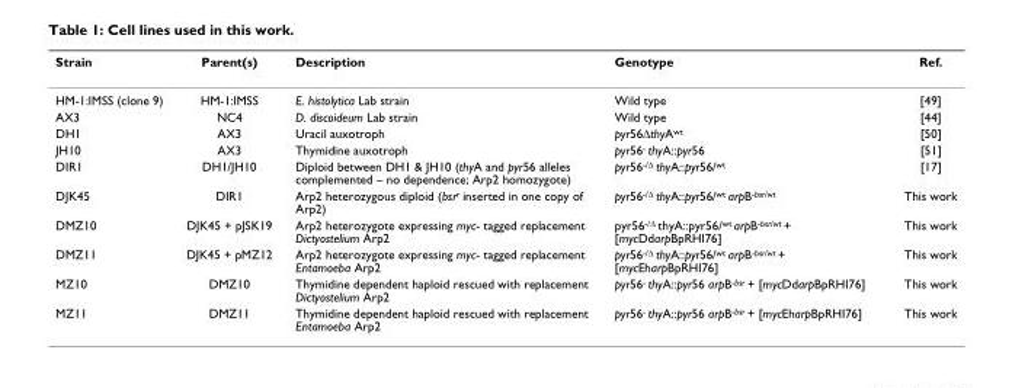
<table><thead><tr><td>Strain</td><td>Parent(s)</td><td>Description</td><td>Genotype</td><td>Ref.</td></tr></thead><tbody><tr><td>HM-1:IMSS (clone 9)</td><td>HM-1:IMSS</td><td>E. histolytica Lab strain</td><td>Wild type</td><td>[49]</td></tr><tr><td>AX3</td><td>NC4</td><td>D. discoideum Lab strain</td><td>Wild type</td><td>[44]</td></tr><tr><td>DH1</td><td>AX3</td><td>Uracil auxotroph</td><td>pyr56ΔthyA<sup>wt</sup></td><td>[50]</td></tr><tr><td>JH10</td><td>AX3</td><td>Thymidine auxotroph</td><td>pyr56<sup>-</sup> thyA::pyr56</td><td>[51]</td></tr><tr><td>DIR1</td><td>DH1/JH10</td><td>Diploid between DH1 &amp; JH10 (thyA and pyr56 alleles complemented – no dependence; Arp2 homozygote)</td><td>pyr56<sup>-/Δ</sup> thyA::pyr56/<sup>wt</sup></td><td>[17]</td></tr><tr><td>DJK45</td><td>DIR1</td><td>Arp2 heterozygous diploid (bsr<sup>r</sup> inserted in one copy of Arp2)</td><td>pyr56<sup>-/Δ</sup> thyA::pyr56/<sup>wt</sup> arpB<sup>-bsr/wt</sup></td><td>This work</td></tr><tr><td>DMZ10</td><td>DJK45 + pJSK19</td><td>Arp2 heterozygote expressing myc- tagged replacement Dictyostelium Arp2</td><td>pyr56<sup>-/Δ</sup> thyA::pyr56/<sup>wt</sup> arpB<sup>-bsr/wt</sup> + [mycDdarpBpRHI76]</td><td>This work</td></tr><tr><td>DMZ11</td><td>DJK45 + pMZ12</td><td>Arp2 heterozygote expressing myc- tagged replacement Entamoeba Arp2</td><td>pyr56<sup>-/Δ</sup> thyA::pyr56/<sup>wt</sup> arpB<sup>-bsr/wt</sup> + [mycEharpBpRHI76]</td><td>This work</td></tr><tr><td>MZ10</td><td>DMZ10</td><td>Thymidine dependent haploid rescued with replacement Dictyostelium Arp2</td><td>pyr56<sup>-</sup> thyA::pyr56 arpB<sup>-bsr</sup> + [mycDdarpBpRHI76]</td><td>This work</td></tr><tr><td>MZ11</td><td>DMZ11</td><td>Thymidine dependent haploid rescued with replacement Entamoeba Arp2</td><td>pyr56<sup>-</sup> thyA::pyr56 arpB<sup>-bsr</sup> + [mycEharpBpRHI76]</td><td>This work</td></tr></tbody></table>